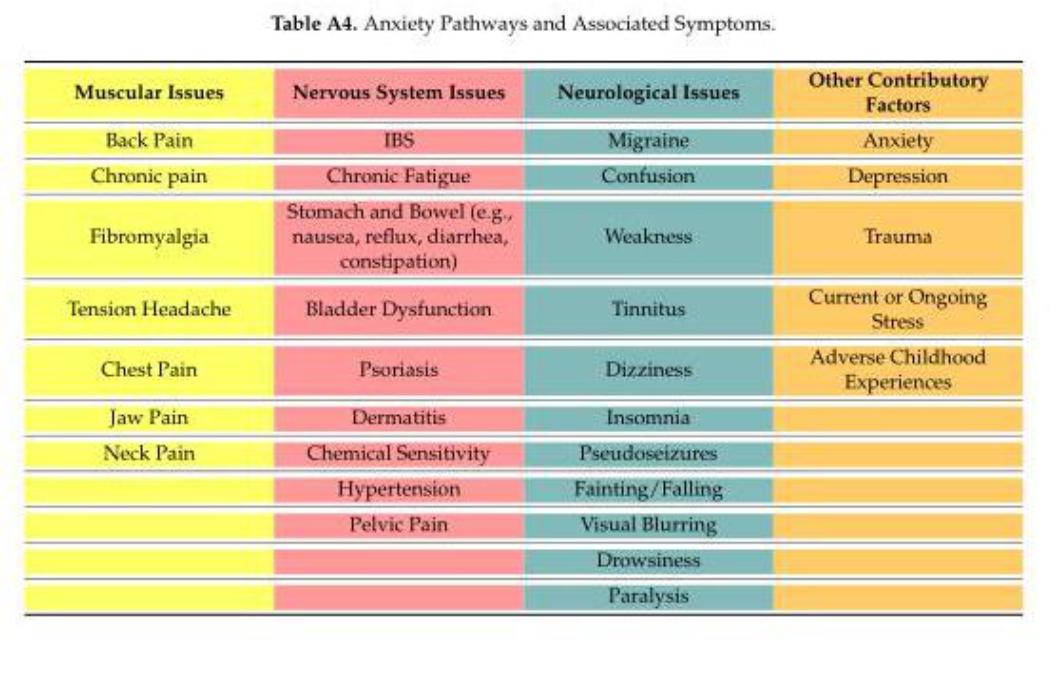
<table><thead><tr><td>Muscular Issues</td><td>Nervous System Issues</td><td>Neurological Issues</td><td>Other Contributory Factors</td></tr></thead><tbody><tr><td>Back Pain</td><td>IBS</td><td>Migraine</td><td>Anxiety</td></tr><tr><td>Chronic pain</td><td>Chronic Fatigue</td><td>Confusion</td><td>Depression</td></tr><tr><td>Fibromyalgia</td><td>Stomach and Bowel (e.g., nausea, reflux, diarrhea, constipation)</td><td>Weakness</td><td>Trauma</td></tr><tr><td>Tension Headache</td><td>Bladder Dysfunction</td><td>Tinnitus</td><td>Current or Ongoing Stress</td></tr><tr><td>Chest Pain</td><td>Psoriasis</td><td>Dizziness</td><td>Adverse Childhood Experiences</td></tr><tr><td>Jaw Pain</td><td>Dermatitis</td><td>Insomnia</td><td></td></tr><tr><td rowspan="5">Neck Pain</td><td>Chemical Sensitivity</td><td>Pseudoseizures</td><td></td></tr><tr><td>Hypertension</td><td>Fainting/Falling</td><td></td></tr><tr><td>Pelvic Pain</td><td>Visual Blurring</td><td></td></tr><tr><td></td><td>Drowsiness</td><td></td></tr><tr><td></td><td>Paralysis</td><td></td></tr></tbody></table>